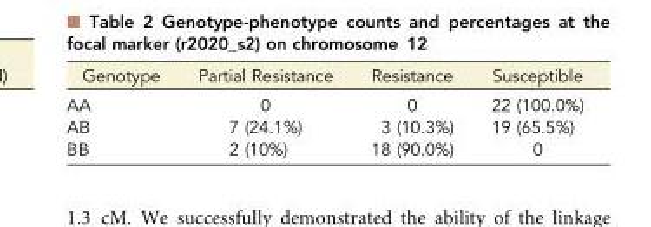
<table><thead><tr><td>Genotype</td><td>Partial Resistance</td><td>Resistance</td><td>Susceptible</td></tr></thead><tbody><tr><td>AA</td><td>0</td><td>0</td><td>22 (100.0%)</td></tr><tr><td>AB</td><td>7 (24.1%)</td><td>3 (10.3%)</td><td>19 (65.5%)</td></tr><tr><td>BB</td><td>2 (10%)</td><td>18 (90.0%)</td><td>0</td></tr></tbody></table>